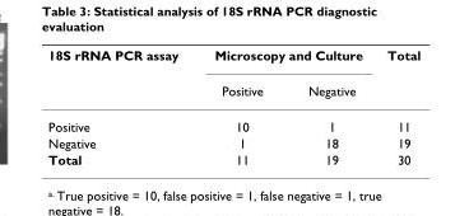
<table><thead><tr><td rowspan="2">18S rRNA PCR assay</td><td colspan="2">Microscopy and Culture</td><td rowspan="2">Total</td></tr><tr><td>Positive</td><td>Negative</td></tr></thead><tbody><tr><td>Positive</td><td>10</td><td>1</td><td>11</td></tr><tr><td>Negative</td><td>1</td><td>18</td><td>19</td></tr><tr><td>Total</td><td>11</td><td>19</td><td>30</td></tr></tbody></table>